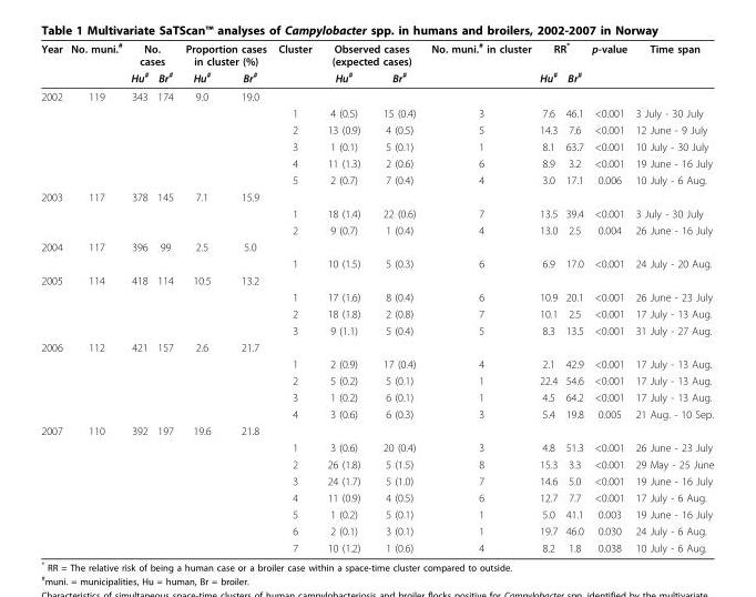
<table><thead><tr><td rowspan="2">Year</td><td rowspan="2">No. muni.<sup>#</sup></td><td colspan="2">No. cases</td><td colspan="2">Proportion cases in cluster (%)</td><td rowspan="2">Cluster</td><td colspan="2">Observed cases (expected cases)</td><td rowspan="2">No. muni.<sup>#</sup> in cluster</td><td colspan="2">RR*</td><td rowspan="2">p-value</td><td rowspan="2">Time span</td></tr><tr><td>Hu<sup>#</sup></td><td>Br<sup>#</sup></td><td>Hu<sup>#</sup></td><td>Br<sup>#</sup></td><td>Hu<sup>#</sup></td><td>Br<sup>#</sup></td><td>Hu<sup>#</sup></td><td>Br<sup>#</sup></td></tr></thead><tbody><tr><td rowspan="6">2002</td><td>119</td><td>343</td><td>174</td><td>9.0</td><td>19.0</td><td></td><td></td><td></td><td></td><td></td><td></td><td></td><td></td></tr><tr><td></td><td></td><td></td><td></td><td></td><td>1</td><td>4 (0.5)</td><td>15 (0.4)</td><td>3</td><td>7.6</td><td>46.1</td><td>&lt;0.001</td><td>3 July - 30 July</td></tr><tr><td></td><td></td><td></td><td></td><td></td><td>2</td><td>13 (0.9)</td><td>4 (0.5)</td><td>5</td><td>14.3</td><td>7.6</td><td>&lt;0.001</td><td>12 June - 9 July</td></tr><tr><td></td><td></td><td></td><td></td><td></td><td>3</td><td>1 (0.1)</td><td>5 (0.1)</td><td>1</td><td>8.1</td><td>63.7</td><td>&lt;0.001</td><td>10 July - 30 July</td></tr><tr><td></td><td></td><td></td><td></td><td></td><td>4</td><td>11 (1.3)</td><td>2 (0.6)</td><td>6</td><td>8.9</td><td>3.2</td><td>&lt;0.001</td><td>19 June - 16 July</td></tr><tr><td></td><td></td><td></td><td></td><td></td><td>5</td><td>2 (0.7)</td><td>7 (0.4)</td><td>4</td><td>3.0</td><td>17.1</td><td>0.006</td><td>10 July - 6 Aug.</td></tr><tr><td rowspan="3">2003</td><td>117</td><td>378</td><td>145</td><td>7.1</td><td>15.9</td><td></td><td></td><td></td><td></td><td></td><td></td><td></td><td></td></tr><tr><td></td><td></td><td></td><td></td><td></td><td>1</td><td>18 (1.4)</td><td>22 (0.6)</td><td>7</td><td>13.5</td><td>39.4</td><td>&lt;0.001</td><td>3 July - 30 July</td></tr><tr><td></td><td></td><td></td><td></td><td></td><td>2</td><td>9 (0.7)</td><td>1 (0.4)</td><td>4</td><td>13.0</td><td>2.5</td><td>0.004</td><td>26 June - 16 July</td></tr><tr><td rowspan="2">2004</td><td>117</td><td>396</td><td>99</td><td>2.5</td><td>5.0</td><td></td><td></td><td></td><td></td><td></td><td></td><td></td><td></td></tr><tr><td></td><td></td><td></td><td></td><td></td><td>1</td><td>10 (1.5)</td><td>5 (0.3)</td><td>6</td><td>6.9</td><td>17.0</td><td>&lt;0.001</td><td>24 July - 20 Aug.</td></tr><tr><td rowspan="4">2005</td><td>114</td><td>418</td><td>114</td><td>10.5</td><td>13.2</td><td></td><td></td><td></td><td></td><td></td><td></td><td></td><td></td></tr><tr><td></td><td></td><td></td><td></td><td></td><td>1</td><td>17 (1.6)</td><td>8 (0.4)</td><td>6</td><td>10.9</td><td>20.1</td><td>&lt;0.001</td><td>26 June - 23 July</td></tr><tr><td></td><td></td><td></td><td></td><td></td><td>2</td><td>18 (1.8)</td><td>2 (0.8)</td><td>7</td><td>10.1</td><td>2.5</td><td>&lt;0.001</td><td>17 July - 13 Aug.</td></tr><tr><td></td><td></td><td></td><td></td><td></td><td>3</td><td>9 (1.1)</td><td>5 (0.4)</td><td>5</td><td>8.3</td><td>13.5</td><td>&lt;0.001</td><td>31 July - 27 Aug.</td></tr><tr><td rowspan="5">2006</td><td>112</td><td>421</td><td>157</td><td>2.6</td><td>21.7</td><td></td><td></td><td></td><td></td><td></td><td></td><td></td><td></td></tr><tr><td></td><td></td><td></td><td></td><td></td><td>1</td><td>2 (0.9)</td><td>17 (0.4)</td><td>4</td><td>2.1</td><td>42.9</td><td>&lt;0.001</td><td>17 July - 13 Aug.</td></tr><tr><td></td><td></td><td></td><td></td><td></td><td>2</td><td>5 (0.2)</td><td>5 (0.1)</td><td>1</td><td>22.4</td><td>54.6</td><td>&lt;0.001</td><td>17 July - 13 Aug.</td></tr><tr><td></td><td></td><td></td><td></td><td></td><td>3</td><td>1 (0.2)</td><td>6 (0.1)</td><td>1</td><td>4.5</td><td>64.2</td><td>&lt;0.001</td><td>17 July - 13 Aug.</td></tr><tr><td></td><td></td><td></td><td></td><td></td><td>4</td><td>3 (0.6)</td><td>6 (0.3)</td><td>3</td><td>5.4</td><td>19.8</td><td>0.005</td><td>21 Aug. - 10 Sep.</td></tr><tr><td rowspan="8">2007</td><td>110</td><td>392</td><td>197</td><td>19.6</td><td>21.8</td><td></td><td></td><td></td><td></td><td></td><td></td><td></td><td></td></tr><tr><td></td><td></td><td></td><td></td><td></td><td>1</td><td>3 (0.6)</td><td>20 (0.4)</td><td>3</td><td>4.8</td><td>51.3</td><td>&lt;0.001</td><td>26 June - 23 July</td></tr><tr><td></td><td></td><td></td><td></td><td></td><td>2</td><td>26 (1.8)</td><td>5 (1.5)</td><td>8</td><td>15.3</td><td>3.3</td><td>&lt;0.001</td><td>29 May - 25 June</td></tr><tr><td></td><td></td><td></td><td></td><td></td><td>3</td><td>24 (1.7)</td><td>5 (1.0)</td><td>7</td><td>14.6</td><td>5.0</td><td>&lt;0.001</td><td>19 June - 16 July</td></tr><tr><td></td><td></td><td></td><td></td><td></td><td>4</td><td>11 (0.9)</td><td>4 (0.5)</td><td>6</td><td>12.7</td><td>7.7</td><td>&lt;0.001</td><td>17 July - 6 Aug.</td></tr><tr><td></td><td></td><td></td><td></td><td></td><td>5</td><td>1 (0.2)</td><td>5 (0.1)</td><td>1</td><td>5.0</td><td>41.1</td><td>0.003</td><td>19 June - 16 July</td></tr><tr><td></td><td></td><td></td><td></td><td></td><td>6</td><td>2 (0.1)</td><td>3 (0.1)</td><td>1</td><td>19.7</td><td>46.0</td><td>0.030</td><td>24 July - 6 Aug.</td></tr><tr><td></td><td></td><td></td><td></td><td></td><td>7</td><td>10 (1.2)</td><td>1 (0.6)</td><td>4</td><td>8.2</td><td>1.8</td><td>0.038</td><td>10 July - 6 Aug.</td></tr></tbody></table>